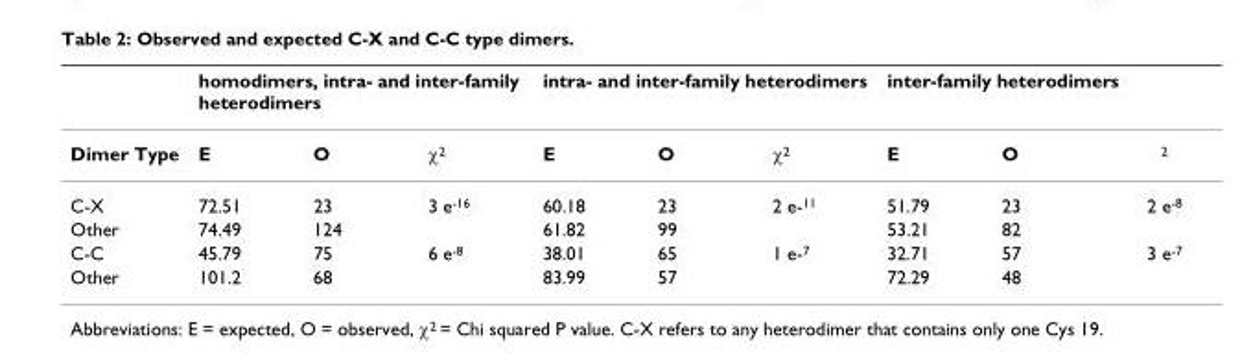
<table><thead><tr><td rowspan="2">Dimer Type</td><td colspan="3">homodimers, intra- and inter-family heterodimers</td><td colspan="3">intra- and inter-family heterodimers</td><td colspan="3">inter-family heterodimers</td></tr><tr><td>E</td><td>O</td><td>χ2</td><td>E</td><td>O</td><td>χ2</td><td>E</td><td>O</td><td>2</td></tr></thead><tbody><tr><td>C-X</td><td>72.51</td><td>23</td><td>3 e-16</td><td>60.18</td><td>23</td><td>2 e-11</td><td>51.79</td><td>23</td><td>2 e-8</td></tr><tr><td>Other</td><td>74.49</td><td>124</td><td></td><td>61.82</td><td>99</td><td></td><td>53.21</td><td>82</td><td></td></tr><tr><td>C-C</td><td>45.79</td><td>75</td><td>6 e-8</td><td>38.01</td><td>65</td><td>1 e-7</td><td>32.71</td><td>57</td><td>3 e-7</td></tr><tr><td>Other</td><td>101.2</td><td>68</td><td></td><td>83.99</td><td>57</td><td></td><td>72.29</td><td>48</td><td></td></tr></tbody></table>